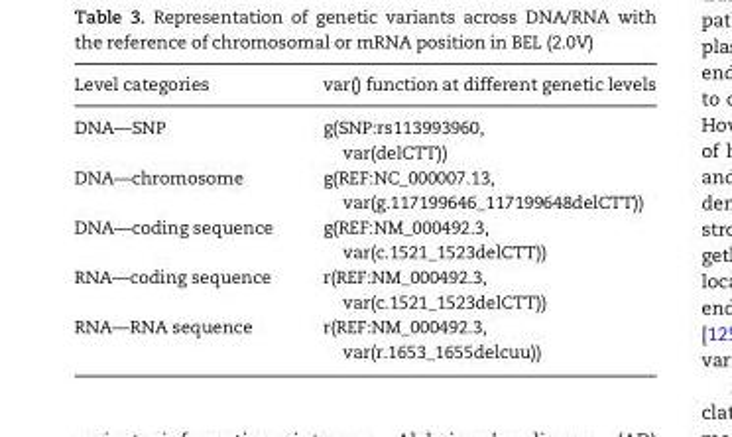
<table><thead><tr><td>Level categories</td><td>var() function at different genetic levels</td></tr></thead><tbody><tr><td>DNA—SNP</td><td>g(SNP:rs113993960, var(delCTT))</td></tr><tr><td>DNA—chromosome</td><td>g(REF:NC_000007.13, var(g.117199646_117199648delCTT))</td></tr><tr><td>DNA—coding sequence</td><td>g(REF:NM_000492.3, var(c.1521_1523delCTT))</td></tr><tr><td>RNA—coding sequence</td><td>r(REF:NM_000492.3, var(c.1521_1523delCTT))</td></tr><tr><td>RNA—RNA sequence</td><td>r(REF:NM_000492.3, var(r.1653_1655delcuu))</td></tr></tbody></table>